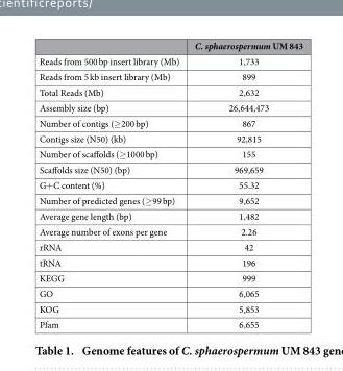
<table><thead><tr><td></td><td>C. sphaerospermum UM 843</td></tr></thead><tbody><tr><td>Reads from 500 bp insert library (Mb)</td><td>1,733</td></tr><tr><td>Reads from 5 kb insert library (Mb)</td><td>899</td></tr><tr><td>Total Reads (Mb)</td><td>2,632</td></tr><tr><td>Assembly size (bp)</td><td>26,644,473</td></tr><tr><td>Number of contigs (≥ 200 bp)</td><td>867</td></tr><tr><td>Contigs size (N50) (kb)</td><td>92,815</td></tr><tr><td>Number of scaffolds (≥ 1000 bp)</td><td>155</td></tr><tr><td>Scaffolds size (N50) (bp)</td><td>969,659</td></tr><tr><td>G+ C content (%)</td><td>55.32</td></tr><tr><td>Number of predicted genes (≥ 99 bp)</td><td>9,652</td></tr><tr><td>Average gene length (bp)</td><td>1,482</td></tr><tr><td>Average number of exons per gene</td><td>2.26</td></tr><tr><td>rRNA</td><td>42</td></tr><tr><td>tRNA</td><td>196</td></tr><tr><td>KEGG</td><td>999</td></tr><tr><td>GO</td><td>6,065</td></tr><tr><td>KOG</td><td>5,853</td></tr><tr><td>Pfam</td><td>6,655</td></tr></tbody></table>